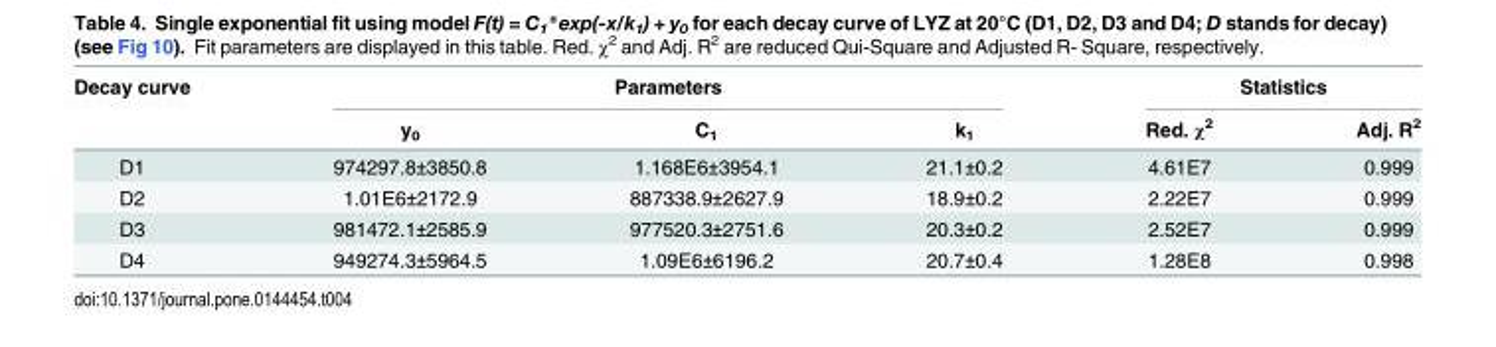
<table><thead><tr><td rowspan="2">Decay curve</td><td colspan="3">Parameters</td><td colspan="2">Statistics</td></tr><tr><td>y<sub>0</sub></td><td>C<sub>1</sub></td><td>k<sub>1</sub></td><td>Red. χ<sup>2</sup></td><td>Adj. R<sup>2</sup></td></tr></thead><tbody><tr><td>D1</td><td>974297.8±3850.8</td><td>1.168E6±3954.1</td><td>21.1±0.2</td><td>4.61E7</td><td>0.999</td></tr><tr><td>D2</td><td>1.01E6±2172.9</td><td>887338.9±2627.9</td><td>18.9±0.2</td><td>2.22E7</td><td>0.999</td></tr><tr><td>D3</td><td>981472.1±2585.9</td><td>977520.3±2751.6</td><td>20.3±0.2</td><td>2.52E7</td><td>0.999</td></tr><tr><td>D4</td><td>949274.3±5964.5</td><td>1.09E6±6196.2</td><td>20.7±0.4</td><td>1.28E8</td><td>0.998</td></tr></tbody></table>